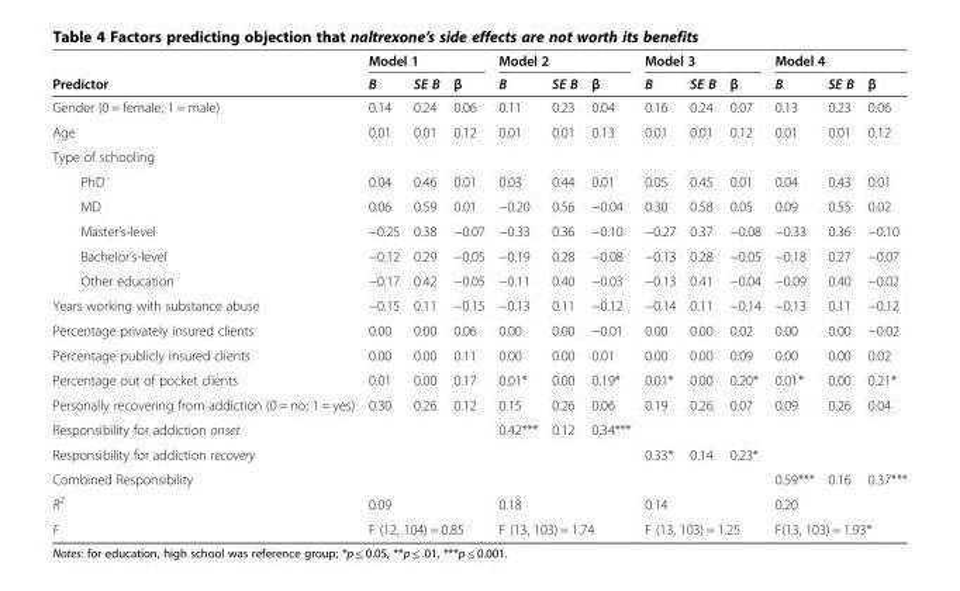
<table><thead><tr><td rowspan="2">Predictor</td><td colspan="3">Model 1</td><td colspan="3">Model 2</td><td colspan="3">Model 3</td><td colspan="3">Model 4</td></tr><tr><td>B</td><td>SE B</td><td>β</td><td>B</td><td>SE B</td><td>β</td><td>B</td><td>SE B</td><td>β</td><td>B</td><td>SE B</td><td>β</td></tr></thead><tbody><tr><td>Gender (0 = female; 1 = male)</td><td>0.14</td><td>0.24</td><td>0.06</td><td>0.11</td><td>0.23</td><td>0.04</td><td>0.16</td><td>0.24</td><td>0.07</td><td>0.13</td><td>0.23</td><td>0.06</td></tr><tr><td>Age</td><td>0.01</td><td>0.01</td><td>0.12</td><td>0.01</td><td>0.01</td><td>0.13</td><td>0.01</td><td>0.01</td><td>0.12</td><td>0.01</td><td>0.01</td><td>0.12</td></tr><tr><td colspan="13">Type of schooling</td></tr><tr><td>PhD</td><td>0.04</td><td>0.46</td><td>0.01</td><td>0.03</td><td>0.44</td><td>0.01</td><td>0.05</td><td>0.45</td><td>0.01</td><td>0.04</td><td>0.43</td><td>0.01</td></tr><tr><td>MD</td><td>0.06</td><td>0.59</td><td>0.01</td><td>−0.20</td><td>0.56</td><td>−0.04</td><td>0.30</td><td>0.58</td><td>0.05</td><td>0.09</td><td>0.55</td><td>0.02</td></tr><tr><td>Master’s-level</td><td>−0.25</td><td>0.38</td><td>−0.07</td><td>−0.33</td><td>0.36</td><td>−0.10</td><td>−0.27</td><td>0.37</td><td>−0.08</td><td>−0.33</td><td>0.36</td><td>−0.10</td></tr><tr><td>Bachelor’s-level</td><td>−0.12</td><td>0.29</td><td>−0.05</td><td>−0.19</td><td>0.28</td><td>−0.08</td><td>−0.13</td><td>0.28</td><td>−0.05</td><td>−0.18</td><td>0.27</td><td>−0.07</td></tr><tr><td>Other education</td><td>−0.17</td><td>0.42</td><td>−0.05</td><td>−0.11</td><td>0.40</td><td>−0.03</td><td>−0.13</td><td>0.41</td><td>−0.04</td><td>−0.09</td><td>0.40</td><td>−0.02</td></tr><tr><td>Years working with substance abuse</td><td>−0.15</td><td>0.11</td><td>−0.15</td><td>−0.13</td><td>0.11</td><td>−0.12</td><td>−0.14</td><td>0.11</td><td>−0.14</td><td>−0.13</td><td>0.11</td><td>−0.12</td></tr><tr><td>Percentage privately insured clients</td><td>0.00</td><td>0.00</td><td>0.06</td><td>0.00</td><td>0.00</td><td>−0.01</td><td>0.00</td><td>0.00</td><td>0.02</td><td>0.00</td><td>0.00</td><td>−0.02</td></tr><tr><td>Percentage publicly insured clients</td><td>0.00</td><td>0.00</td><td>0.11</td><td>0.00</td><td>0.00</td><td>0.01</td><td>0.00</td><td>0.00</td><td>0.09</td><td>0.00</td><td>0.00</td><td>0.02</td></tr><tr><td>Percentage out of pocket clients</td><td>0.01</td><td>0.00</td><td>0.17</td><td>0.01*</td><td>0.00</td><td>0.19*</td><td>0.01*</td><td>0.00</td><td>0.20*</td><td>0.01*</td><td>0.00</td><td>0.21*</td></tr><tr><td>Personally recovering from addiction (0 = no; 1 = yes)</td><td>0.30</td><td>0.26</td><td>0.12</td><td>0.15</td><td>0.26</td><td>0.06</td><td>0.19</td><td>0.26</td><td>0.07</td><td>0.09</td><td>0.26</td><td>0.04</td></tr><tr><td>Responsibility for addiction onset</td><td></td><td></td><td></td><td>0.42***</td><td>0.12</td><td>0.34***</td><td></td><td></td><td></td><td></td><td></td><td></td></tr><tr><td>Responsibility for addiction recovery</td><td></td><td></td><td></td><td></td><td></td><td></td><td>0.33*</td><td>0.14</td><td>0.23*</td><td></td><td></td><td></td></tr><tr><td>Combined Responsibility</td><td></td><td></td><td></td><td></td><td colspan="3"></td><td colspan="2"></td><td>0.59***</td><td>0.16</td><td>0.37***</td></tr><tr><td>R<sup>2</sup></td><td colspan="3">0.09</td><td colspan="3">0.18</td><td colspan="3">0.14</td><td colspan="3">0.20</td></tr><tr><td>F</td><td colspan="3">F (12, 104) = 0.85</td><td colspan="3">F (13, 103) = 1.74</td><td colspan="3">F (13, 103) = 1.25</td><td colspan="3">F(13, 103) = 1.93*</td></tr></tbody></table>